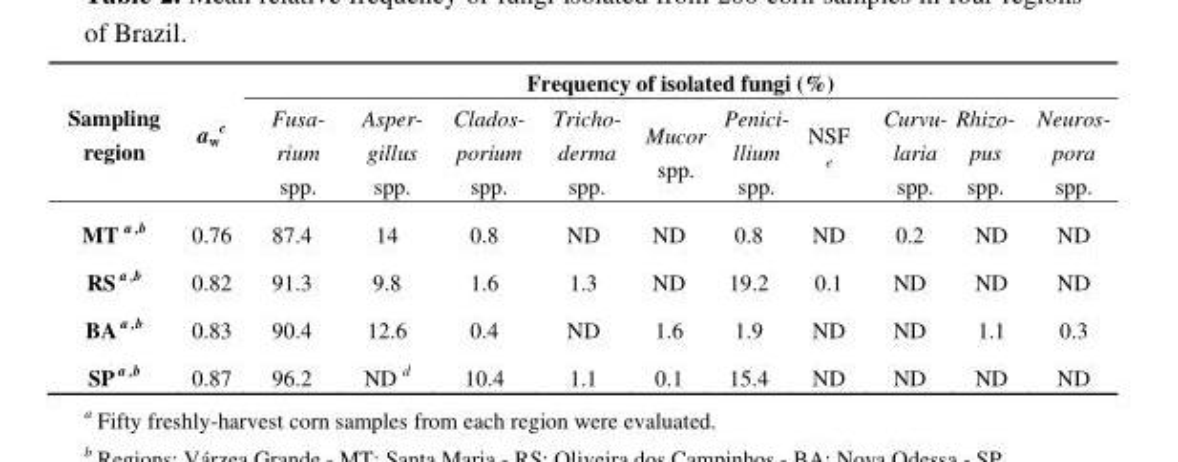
<table><thead><tr><td rowspan="2">Sampling region</td><td rowspan="2">a<sub>w</sub> <sup>c</sup></td><td colspan="10">Frequency of isolated fungi (%)</td></tr><tr><td>Fusa- rium spp.</td><td>Asper- gillus spp.</td><td>Clados- porium spp.</td><td>Tricho- derma spp.</td><td>Mucor spp.</td><td>Penici- llium spp.</td><td>NSF e</td><td>Curvu- laria spp.</td><td>Rhizo- pus spp.</td><td>Neuros- pora spp.</td></tr></thead><tbody><tr><td>MT a ,b</td><td>0.76</td><td>87.4</td><td>14</td><td>0.8</td><td>ND</td><td>ND</td><td>0.8</td><td>ND</td><td>0.2</td><td>ND</td><td>ND</td></tr><tr><td>RS a ,b</td><td>0.82</td><td>91.3</td><td>9.8</td><td>1.6</td><td>1.3</td><td>ND</td><td>19.2</td><td>0.1</td><td>ND</td><td>ND</td><td>ND</td></tr><tr><td>BA a ,b</td><td>0.83</td><td>90.4</td><td>12.6</td><td>0.4</td><td>ND</td><td>1.6</td><td>1.9</td><td>ND</td><td>ND</td><td>1.1</td><td>0.3</td></tr><tr><td>SP a ,b</td><td>0.87</td><td>96.2</td><td>ND d</td><td>10.4</td><td>1.1</td><td>0.1</td><td>15.4</td><td>ND</td><td>ND</td><td>ND</td><td>ND</td></tr></tbody></table>